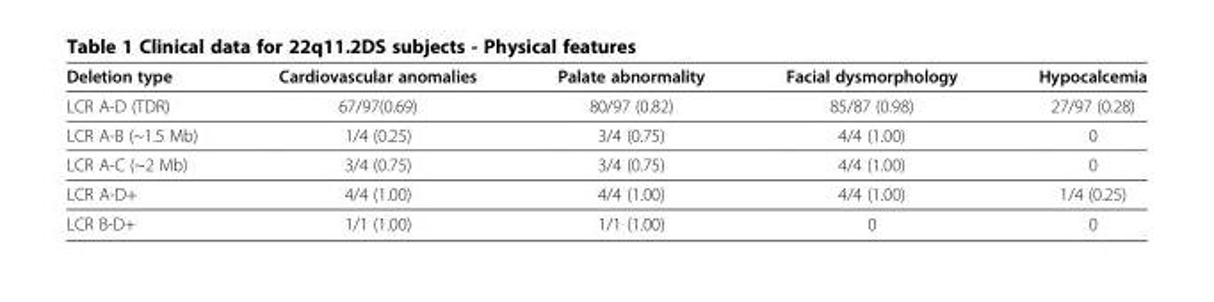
<table><thead><tr><td>Deletion type</td><td>Cardiovascular anomalies</td><td>Palate abnormality</td><td>Facial dysmorphology</td><td>Hypocalcemia</td></tr></thead><tbody><tr><td>LCR A-D (TDR)</td><td>67/97(0.69)</td><td>80/97 (0.82)</td><td>85/87 (0.98)</td><td>27/97 (0.28)</td></tr><tr><td>LCR A-B (~1.5 Mb)</td><td>1/4 (0.25)</td><td>3/4 (0.75)</td><td>4/4 (1.00)</td><td>0</td></tr><tr><td>LCR A-C (~2 Mb)</td><td>3/4 (0.75)</td><td>3/4 (0.75)</td><td>4/4 (1.00)</td><td>0</td></tr><tr><td>LCR A-D+</td><td>4/4 (1.00)</td><td>4/4 (1.00)</td><td>4/4 (1.00)</td><td>1/4 (0.25)</td></tr><tr><td>LCR B-D+</td><td>1/1 (1.00)</td><td>1/1 (1.00)</td><td>0</td><td>0</td></tr></tbody></table>